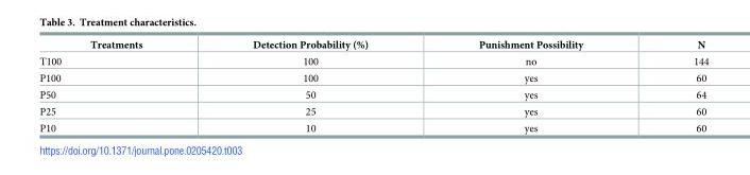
<table><thead><tr><td>Treatments</td><td>Detection Probability (%)</td><td>Punishment Possibility</td><td>N</td></tr></thead><tbody><tr><td>T100</td><td>100</td><td>no</td><td>144</td></tr><tr><td>P100</td><td>100</td><td>yes</td><td>60</td></tr><tr><td>P50</td><td>50</td><td>yes</td><td>64</td></tr><tr><td>P25</td><td>25</td><td>yes</td><td>60</td></tr><tr><td>P10</td><td>10</td><td>yes</td><td>60</td></tr></tbody></table>